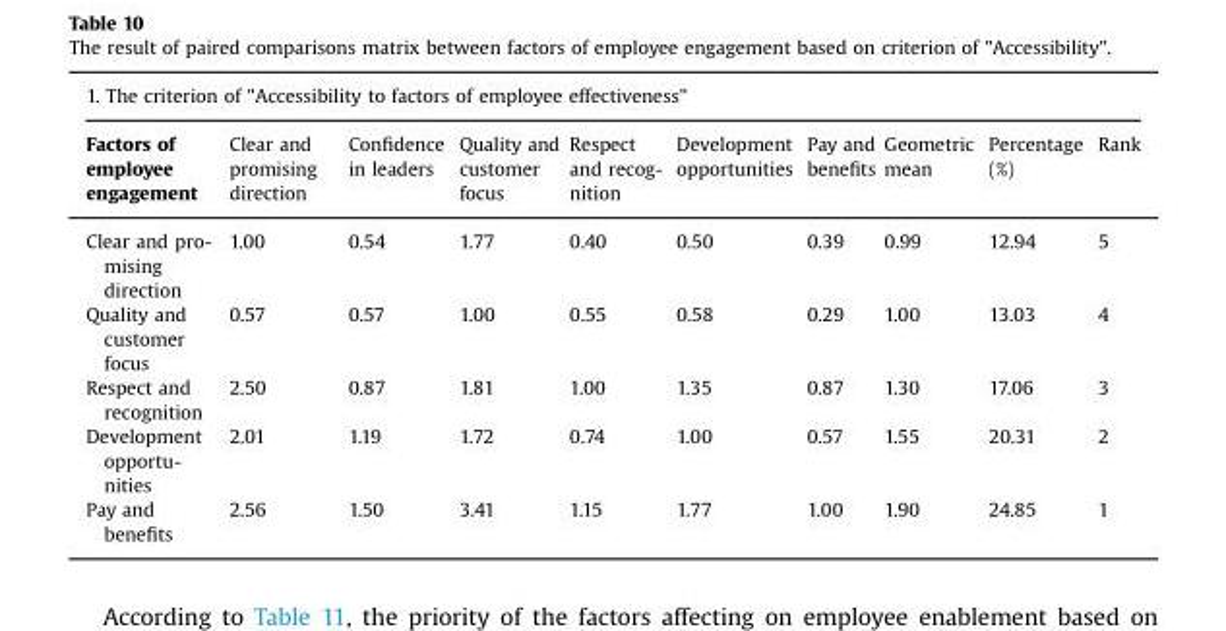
<table><thead><tr><td colspan="10">1. The criterion of &quot;Accessibility to factors of employee effectiveness&quot;</td></tr><tr><td>Factors of employee engagement</td><td>Clear and promising direction</td><td>Confidence in leaders</td><td>Quality and customer focus</td><td>Respect and recog- nition</td><td>Development opportunities</td><td>Pay and benefits</td><td>Geometric mean</td><td>Percentage (%)</td><td>Rank</td></tr></thead><tbody><tr><td>Clear and pro- mising direction</td><td>1.00</td><td>0.54</td><td>1.77</td><td>0.40</td><td>0.50</td><td>0.39</td><td>0.99</td><td>12.94</td><td>5</td></tr><tr><td>Quality and customer focus</td><td>0.57</td><td>0.57</td><td>1.00</td><td>0.55</td><td>0.58</td><td>0.29</td><td>1.00</td><td>13.03</td><td>4</td></tr><tr><td>Respect and recognition</td><td>2.50</td><td>0.87</td><td>1.81</td><td>1.00</td><td>1.35</td><td>0.87</td><td>1.30</td><td>17.06</td><td>3</td></tr><tr><td>Development opportu- nities</td><td>2.01</td><td>1.19</td><td>1.72</td><td>0.74</td><td>1.00</td><td>0.57</td><td>1.55</td><td>20.31</td><td>2</td></tr><tr><td>Pay and benefits</td><td>2.56</td><td>1.50</td><td>3.41</td><td>1.15</td><td>1.77</td><td>1.00</td><td>1.90</td><td>24.85</td><td>1</td></tr></tbody></table>